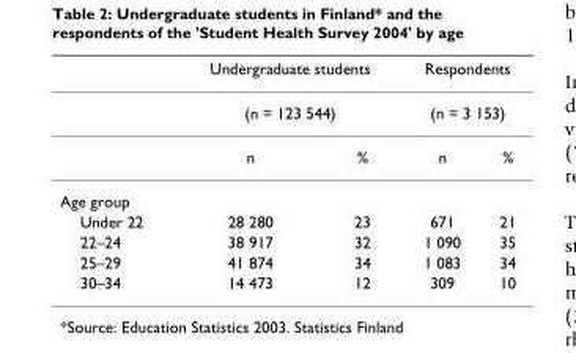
<table><thead><tr><td rowspan="3"></td><td rowspan="2" colspan="2">Undergraduate students (n = 123 544)</td><td rowspan="2" colspan="2">Respondents (n = 3 153)</td></tr><tr></tr><tr><td>n</td><td>%</td><td>n</td><td>%</td></tr></thead><tbody><tr><td colspan="5">Age group</td></tr><tr><td>Under 22</td><td>28 280</td><td>23</td><td>671</td><td>21</td></tr><tr><td>22–24</td><td>38 917</td><td>32</td><td>1 090</td><td>35</td></tr><tr><td>25–29</td><td>41 874</td><td>34</td><td>1 083</td><td>34</td></tr><tr><td>30–34</td><td>14 473</td><td>12</td><td>309</td><td>10</td></tr></tbody></table>